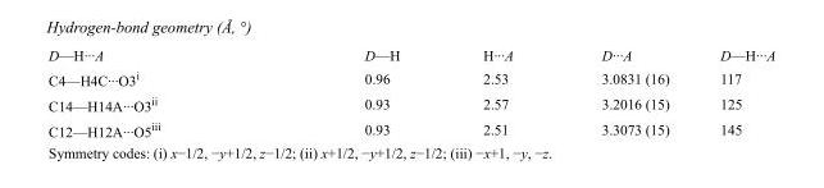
<table><tbody><tr><td>D—H···A</td><td>D—H</td><td>H···A</td><td>D···A</td><td>D—H···A</td></tr><tr><td>C4—H4C···O3<sup>i</sup></td><td>0.96</td><td>2.53</td><td>3.0831 (16)</td><td>117</td></tr><tr><td>C14—H14A···O3<sup>ii</sup></td><td>0.93</td><td>2.57</td><td>3.2016 (15)</td><td>125</td></tr><tr><td>C12—H12A···O5<sup>iii</sup></td><td>0.93</td><td>2.51</td><td>3.3073 (15)</td><td>145</td></tr></tbody></table>